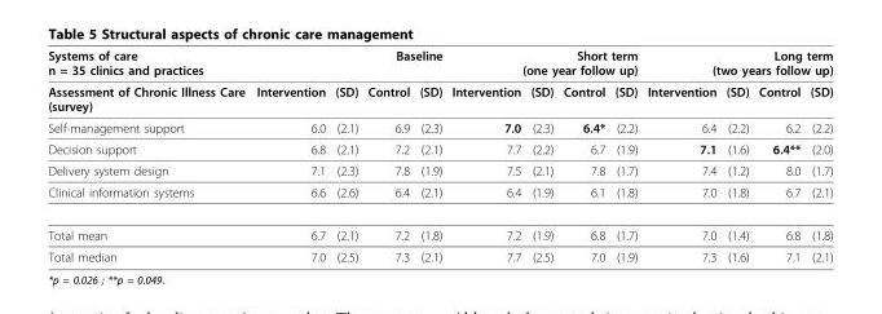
<table><thead><tr><td rowspan="2">Systems of care n = 35 clinics and practices Assessment of Chronic Illness Care (survey)</td><td colspan="4">Baseline</td><td colspan="4">Short term (one year follow up)</td><td colspan="4">Long term (two years follow up)</td></tr><tr><td>Intervention</td><td>(SD)</td><td>Control</td><td>(SD)</td><td>Intervention</td><td>(SD)</td><td>Control</td><td>(SD)</td><td>Intervention</td><td>(SD)</td><td>Control</td><td>(SD)</td></tr></thead><tbody><tr><td>Self-management support</td><td>6.0</td><td>(2.1)</td><td>6.9</td><td>(2.3)</td><td>7.0</td><td>(2.3)</td><td>6.4*</td><td>(2.2)</td><td>6.4</td><td>(2.2)</td><td>6.2</td><td>(2.2)</td></tr><tr><td>Decision support</td><td>6.8</td><td>(2.1)</td><td>7.2</td><td>(2.1)</td><td>7.7</td><td>(2.2)</td><td>6.7</td><td>(1.9)</td><td>7.1</td><td>(1.6)</td><td>6.4**</td><td>(2.0)</td></tr><tr><td>Delivery system design</td><td>7.1</td><td>(2.3)</td><td>7.8</td><td>(1.9)</td><td>7.5</td><td>(2.1)</td><td>7.8</td><td>(1.7)</td><td>7.4</td><td>(1.2)</td><td>8.0</td><td>(1.7)</td></tr><tr><td>Clinical information systems</td><td>6.6</td><td>(2.6)</td><td>6.4</td><td>(2.1)</td><td>6.4</td><td>(1.9)</td><td>6.1</td><td>(1.8)</td><td>7.0</td><td>(1.8)</td><td>6.7</td><td>(2.1)</td></tr><tr><td>Total mean</td><td>6.7</td><td>(2.1)</td><td>7.2</td><td>(1.8)</td><td>7.2</td><td>(1.9)</td><td>6.8</td><td>(1.7)</td><td>7.0</td><td>(1.4)</td><td>6.8</td><td>(1.8)</td></tr><tr><td>Total median</td><td>7.0</td><td>(2.5)</td><td>7.3</td><td>(2.1)</td><td>7.7</td><td>(2.5)</td><td>7.0</td><td>(1.9)</td><td>7.3</td><td>(1.6)</td><td>7.1</td><td>(2.1)</td></tr></tbody></table>